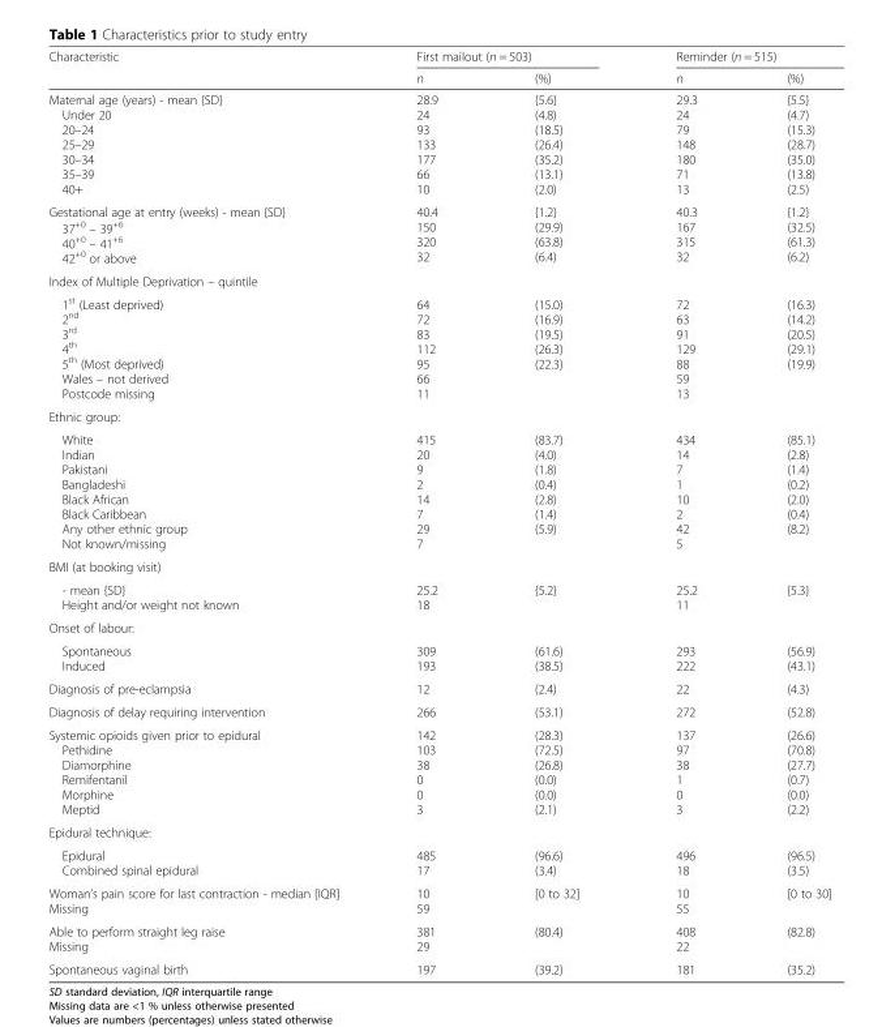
<table><thead><tr><td rowspan="2">Characteristic</td><td colspan="2">First mailout (n = 503)</td><td colspan="2">Reminder (n = 515)</td></tr><tr><td>n</td><td>(%)</td><td>n</td><td>(%)</td></tr></thead><tbody><tr><td>Maternal age (years) - mean {SD} Under 20 20–24 25–29 30–34 35–39 40+</td><td>28.9 24 93 133 177 66 10</td><td>{5.6} (4.8) (18.5) (26.4) (35.2) (13.1) (2.0)</td><td>29.3 24 79 148 180 71 13</td><td>{5.5} (4.7) (15.3) (28.7) (35.0) (13.8) (2.5)</td></tr><tr><td>Gestational age at entry (weeks) - mean {SD} 37<sup>+0</sup> – 39<sup>+6</sup> 40<sup>+0</sup> – 41<sup>+6</sup> 42<sup>+0</sup> or above</td><td>40.4 150 320 32</td><td>{1.2} (29.9) (63.8) (6.4)</td><td>40.3 167 315 32</td><td>{1.2} (32.5) (61.3) (6.2)</td></tr><tr><td colspan="5">Index of Multiple Deprivation – quintile</td></tr><tr><td>1<sup>st</sup> (Least deprived) 2<sup>nd</sup> 3<sup>rd</sup> 4<sup>th</sup> 5<sup>th</sup> (Most deprived) Wales – not derived Postcode missing</td><td>64 72 83 112 95 66 11</td><td>(15.0) (16.9) (19.5) (26.3) (22.3)</td><td>72 63 91 129 88 59 13</td><td>(16.3) (14.2) (20.5) (29.1) (19.9)</td></tr><tr><td colspan="5">Ethnic group:</td></tr><tr><td>White Indian Pakistani Bangladeshi Black African Black Caribbean Any other ethnic group Not known/missing</td><td>415 20 9 2 14 7 29 7</td><td>(83.7) (4.0) (1.8) (0.4) (2.8) (1.4) (5.9)</td><td>434 14 7 1 10 2 42 5</td><td>(85.1) (2.8) (1.4) (0.2) (2.0) (0.4) (8.2)</td></tr><tr><td colspan="5">BMI (at booking visit)</td></tr><tr><td>- mean {SD} Height and/or weight not known</td><td>25.2 18</td><td>{5.2}</td><td>25.2 11</td><td>{5.3}</td></tr><tr><td colspan="5">Onset of labour:</td></tr><tr><td>Spontaneous Induced</td><td>309 193</td><td>(61.6) (38.5)</td><td>293 222</td><td>(56.9) (43.1)</td></tr><tr><td>Diagnosis of pre-eclampsia</td><td>12</td><td>(2.4)</td><td>22</td><td>(4.3)</td></tr><tr><td>Diagnosis of delay requiring intervention</td><td>266</td><td>(53.1)</td><td>272</td><td>(52.8)</td></tr><tr><td>Systemic opioids given prior to epidural Pethidine Diamorphine Remifentanil Morphine Meptid</td><td>142 103 38 0 0 3</td><td>(28.3) (72.5) (26.8) (0.0) (0.0) (2.1)</td><td>137 97 38 1 0 3</td><td>(26.6) (70.8) (27.7) (0.7) (0.0) (2.2)</td></tr><tr><td colspan="5">Epidural technique:</td></tr><tr><td>Epidural Combined spinal epidural</td><td>485 17</td><td>(96.6) (3.4)</td><td>496 18</td><td>(96.5) (3.5)</td></tr><tr><td>Woman’s pain score for last contraction - median [IQR] Missing</td><td>10 59</td><td>[0 to 32]</td><td>10 55</td><td>[0 to 30]</td></tr><tr><td>Able to perform straight leg raise Missing</td><td>381 29</td><td>(80.4)</td><td>408 22</td><td>(82.8)</td></tr><tr><td>Spontaneous vaginal birth</td><td>197</td><td>(39.2)</td><td>181</td><td>(35.2)</td></tr></tbody></table>